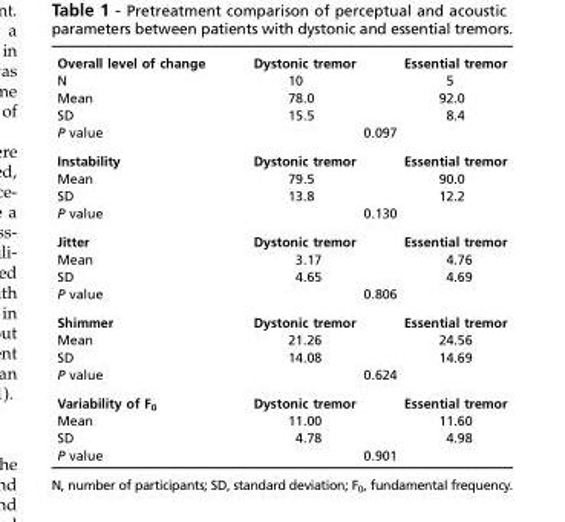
<table><tbody><tr><td>Overall level of change</td><td>Dystonic tremor</td><td>Essential tremor</td></tr><tr><td>N</td><td>10</td><td>5</td></tr><tr><td>Mean</td><td>78.0</td><td>92.0</td></tr><tr><td>SD</td><td>15.5</td><td>8.4</td></tr><tr><td>P value</td><td colspan="2">0.097</td></tr><tr><td>Instability</td><td>Dystonic tremor</td><td>Essential tremor</td></tr><tr><td>Mean</td><td>79.5</td><td>90.0</td></tr><tr><td>SD</td><td>13.8</td><td>12.2</td></tr><tr><td>P value</td><td colspan="2">0.130</td></tr><tr><td>Jitter</td><td>Dystonic tremor</td><td>Essential tremor</td></tr><tr><td>Mean</td><td>3.17</td><td>4.76</td></tr><tr><td>SD</td><td>4.65</td><td>4.69</td></tr><tr><td>P value</td><td colspan="2">0.806</td></tr><tr><td>Shimmer</td><td>Dystonic tremor</td><td>Essential tremor</td></tr><tr><td>Mean</td><td>21.26</td><td>24.56</td></tr><tr><td>SD</td><td>14.08</td><td>14.69</td></tr><tr><td>P value</td><td colspan="2">0.624</td></tr><tr><td>Variability of F<sub>0</sub></td><td>Dystonic tremor</td><td>Essential tremor</td></tr><tr><td>Mean</td><td>11.00</td><td>11.60</td></tr><tr><td>SD</td><td>4.78</td><td>4.98</td></tr><tr><td>P value</td><td colspan="2">0.901</td></tr></tbody></table>